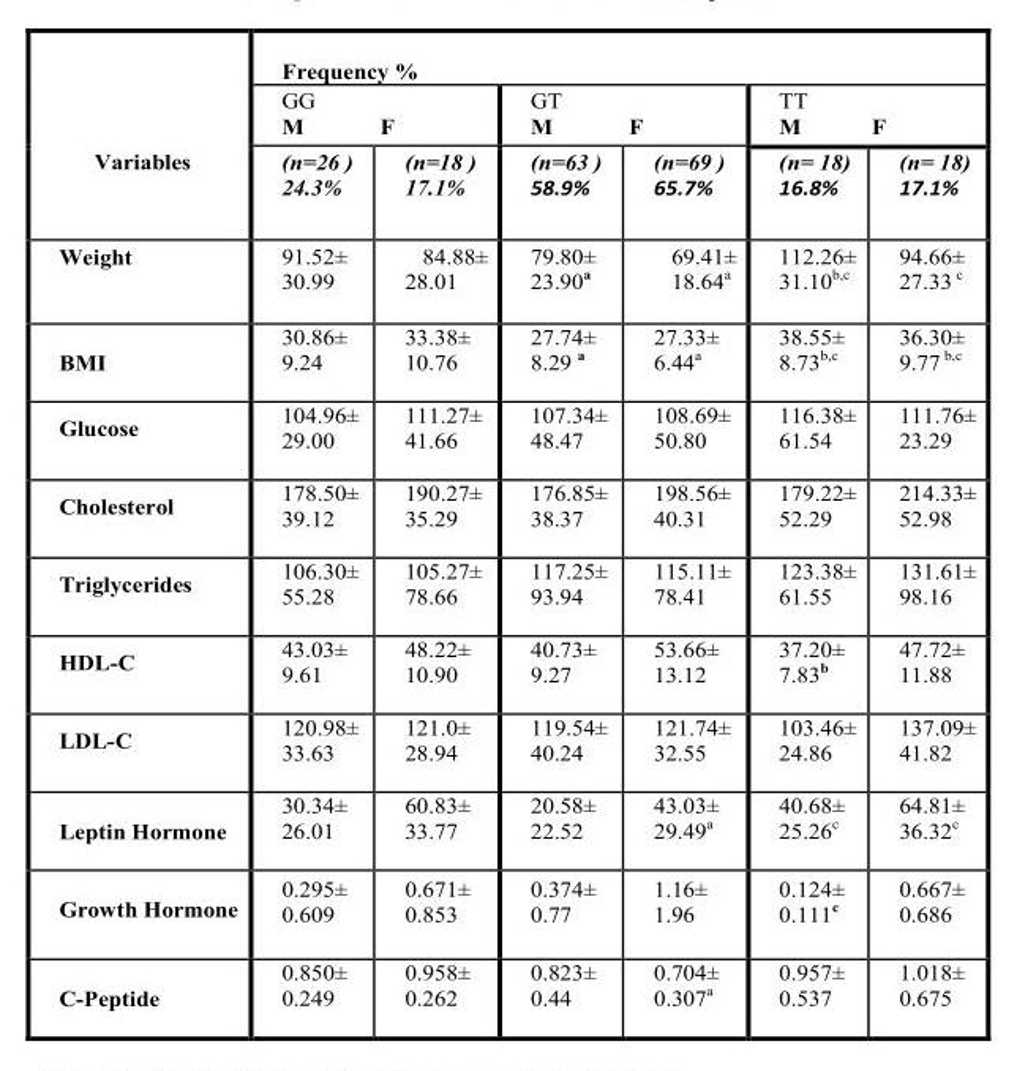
<table><thead><tr><td rowspan="3">Variables</td><td colspan="6">Frequency %</td></tr><tr><td rowspan="2">GG M (n=26 ) 24.3%</td><td rowspan="2">F (n=18 ) 17.1%</td><td rowspan="2">GT M (n=63 ) 58.9%</td><td rowspan="2">F (n=69 ) 65.7%</td><td rowspan="2">TT M (n= 18) 16.8%</td><td rowspan="2">F (n= 18) 17.1%</td></tr><tr></tr></thead><tbody><tr><td>Weight</td><td>91.52± 30.99</td><td>84.88± 28.01</td><td>79.80± 23.90<sup>a</sup></td><td>69.41± 18.64<sup>a</sup></td><td>112.26± 31.10<sup>b,c</sup></td><td>94.66± 27.33 <sup>c</sup></td></tr><tr><td>BMI</td><td>30.86± 9.24</td><td>33.38± 10.76</td><td>27.74± 8.29 <sup>a</sup></td><td>27.33± 6.44<sup>a</sup></td><td>38.55± 8.73<sup>b,c</sup></td><td>36.30± 9.77 <sup>b,c</sup></td></tr><tr><td>Glucose</td><td>104.96± 29.00</td><td>111.27± 41.66</td><td>107.34± 48.47</td><td>108.69± 50.80</td><td>116.38± 61.54</td><td>111.76± 23.29</td></tr><tr><td>Cholesterol</td><td>178.50± 39.12</td><td>190.27± 35.29</td><td>176.85± 38.37</td><td>198.56± 40.31</td><td>179.22± 52.29</td><td>214.33± 52.98</td></tr><tr><td>Triglycerides</td><td>106.30± 55.28</td><td>105.27± 78.66</td><td>117.25± 93.94</td><td>115.11± 78.41</td><td>123.38± 61.55</td><td>131.61± 98.16</td></tr><tr><td>HDL-C</td><td>43.03± 9.61</td><td>48.22± 10.90</td><td>40.73± 9.27</td><td>53.66± 13.12</td><td>37.20± 7.83<sup>b</sup></td><td>47.72± 11.88</td></tr><tr><td>LDL-C</td><td>120.98± 33.63</td><td>121.0± 28.94</td><td>119.54± 40.24</td><td>121.74± 32.55</td><td>103.46± 24.86</td><td>137.09± 41.82</td></tr><tr><td>Leptin Hormone</td><td>30.34± 26.01</td><td>60.83± 33.77</td><td>20.58± 22.52</td><td>43.03± 29.49<sup>a</sup></td><td>40.68± 25.26<sup>c</sup></td><td>64.81± 36.32<sup>c</sup></td></tr><tr><td>Growth Hormone</td><td>0.295± 0.609</td><td>0.671± 0.853</td><td>0.374± 0.77</td><td>1.16± 1.96</td><td>0.124± 0.111<sup>c</sup></td><td>0.667± 0.686</td></tr><tr><td>C-Peptide</td><td>0.850± 0.249</td><td>0.958± 0.262</td><td>0.823± 0.44</td><td>0.704± 0.307<sup>a</sup></td><td>0.957± 0.537</td><td>1.018± 0.675</td></tr></tbody></table>